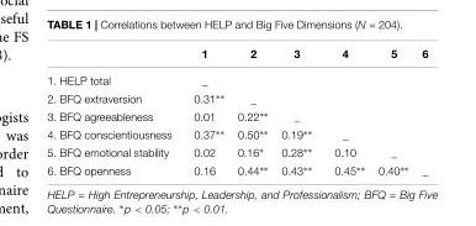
<table><thead><tr><td></td><td>1</td><td>2</td><td>3</td><td>4</td><td>5</td><td>6</td></tr></thead><tbody><tr><td>1. HELP total</td><td>_</td><td></td><td></td><td></td><td></td><td></td></tr><tr><td>2. BFQ extraversion</td><td>0.31∗∗</td><td>_</td><td></td><td></td><td></td><td></td></tr><tr><td>3. BFQ agreeableness</td><td>0.01</td><td>0.22∗∗</td><td>_</td><td></td><td></td><td></td></tr><tr><td>4. BFQ conscientiousness</td><td>0.37∗∗</td><td>0.50∗∗</td><td>0.19∗∗</td><td>_</td><td></td><td></td></tr><tr><td>5. BFQ emotional stability</td><td>0.02</td><td>0.16∗</td><td>0.28∗∗</td><td>0.10</td><td>_</td><td></td></tr><tr><td>6. BFQ openness</td><td>0.16</td><td>0.44∗∗</td><td>0.43∗∗</td><td>0.45∗∗</td><td>0.40∗∗</td><td>_</td></tr></tbody></table>